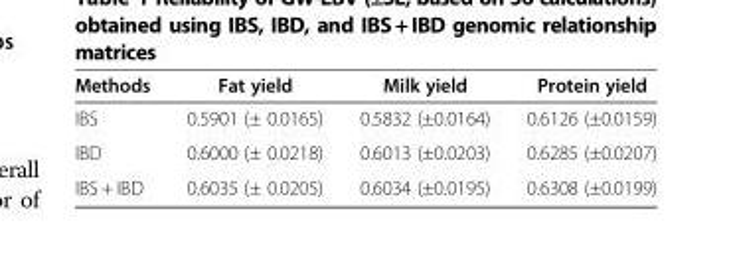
<table><thead><tr><td>Methods</td><td>Fat yield</td><td>Milk yield</td><td>Protein yield</td></tr></thead><tbody><tr><td>IBS</td><td>0.5901 (± 0.0165)</td><td>0.5832 (±0.0164)</td><td>0.6126 (±0.0159)</td></tr><tr><td>IBD</td><td>0.6000 (± 0.0218)</td><td>0.6013 (±0.0203)</td><td>0.6285 (±0.0207)</td></tr><tr><td>IBS + IBD</td><td>0.6035 (± 0.0205)</td><td>0.6034 (±0.0195)</td><td>0.6308 (±0.0199)</td></tr></tbody></table>